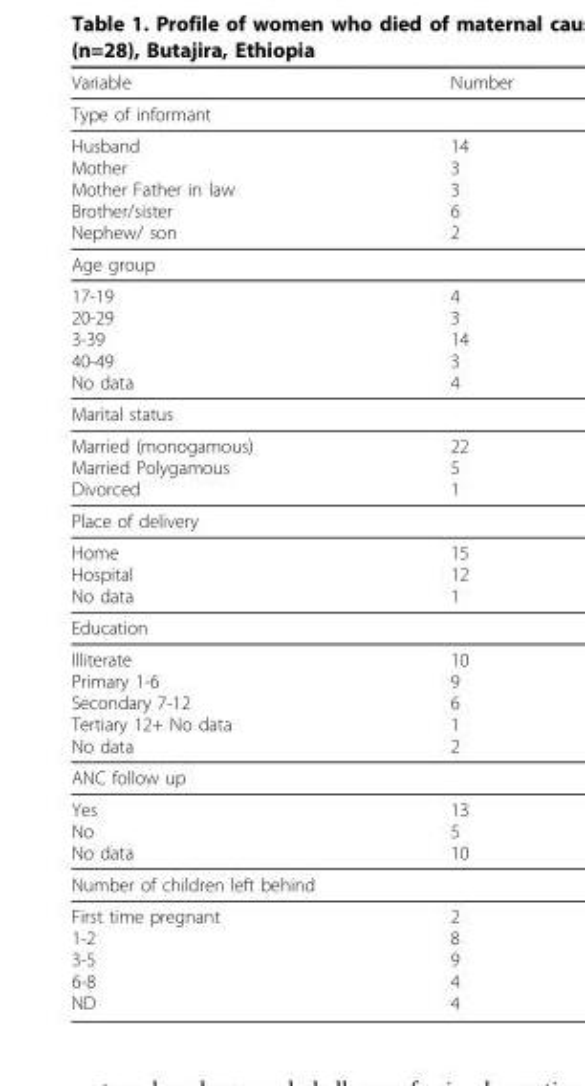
<table><thead><tr><td>Variable</td><td>Number</td></tr></thead><tbody><tr><td colspan="2">Type of informant</td></tr><tr><td>Husband Mother Mother Father in law Brother/sister Nephew/ son</td><td>14 3 3 6 2</td></tr><tr><td colspan="2">Age group</td></tr><tr><td>17-19 20-29 3-39 40-49 No data</td><td>4 3 14 3 4</td></tr><tr><td colspan="2">Marital status</td></tr><tr><td>Married (monogamous) Married Polygamous Divorced</td><td>22 5 1</td></tr><tr><td colspan="2">Place of delivery</td></tr><tr><td>Home Hospital No data</td><td>15 12 1</td></tr><tr><td colspan="2">Education</td></tr><tr><td>Illiterate Primary 1-6 Secondary 7-12 Tertiary 12+ No data No data</td><td>10 9 6 1 2</td></tr><tr><td colspan="2">ANC follow up</td></tr><tr><td>Yes No No data</td><td>13 5 10</td></tr><tr><td colspan="2">Number of children left behind</td></tr><tr><td>First time pregnant 1-2 3-5 6-8 ND</td><td>2 8 9 4 4</td></tr></tbody></table>